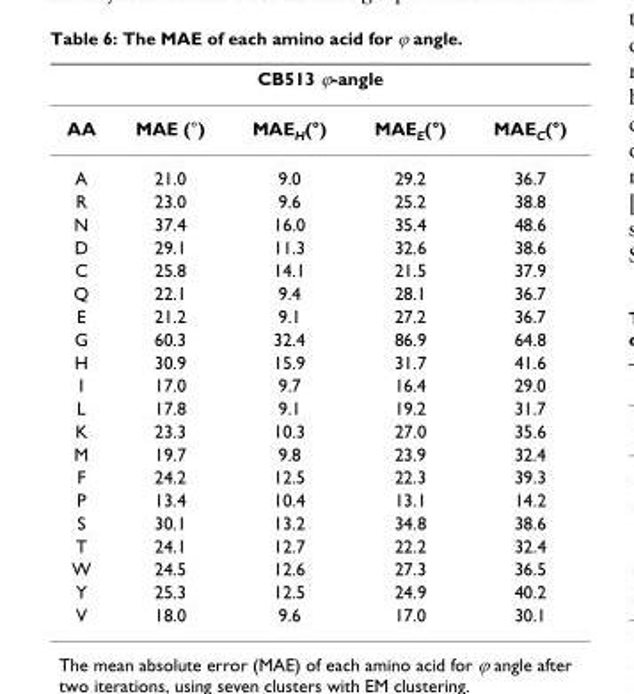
<table><thead><tr><td colspan="5">CB513 ϕ-angle</td></tr><tr><td>AA</td><td>MAE (°)</td><td>MAE<sub>H</sub>(°)</td><td>MAE<sub>E</sub>(°)</td><td>MAE<sub>C</sub>(°)</td></tr></thead><tbody><tr><td>A</td><td>21.0</td><td>9.0</td><td>29.2</td><td>36.7</td></tr><tr><td>R</td><td>23.0</td><td>9.6</td><td>25.2</td><td>38.8</td></tr><tr><td>N</td><td>37.4</td><td>16.0</td><td>35.4</td><td>48.6</td></tr><tr><td>D</td><td>29.1</td><td>11.3</td><td>32.6</td><td>38.6</td></tr><tr><td>C</td><td>25.8</td><td>14.1</td><td>21.5</td><td>37.9</td></tr><tr><td>Q</td><td>22.1</td><td>9.4</td><td>28.1</td><td>36.7</td></tr><tr><td>E</td><td>21.2</td><td>9.1</td><td>27.2</td><td>36.7</td></tr><tr><td>G</td><td>60.3</td><td>32.4</td><td>86.9</td><td>64.8</td></tr><tr><td>H</td><td>30.9</td><td>15.9</td><td>31.7</td><td>41.6</td></tr><tr><td>I</td><td>17.0</td><td>9.7</td><td>16.4</td><td>29.0</td></tr><tr><td>L</td><td>17.8</td><td>9.1</td><td>19.2</td><td>31.7</td></tr><tr><td>K</td><td>23.3</td><td>10.3</td><td>27.0</td><td>35.6</td></tr><tr><td>M</td><td>19.7</td><td>9.8</td><td>23.9</td><td>32.4</td></tr><tr><td>F</td><td>24.2</td><td>12.5</td><td>22.3</td><td>39.3</td></tr><tr><td>P</td><td>13.4</td><td>10.4</td><td>13.1</td><td>14.2</td></tr><tr><td>S</td><td>30.1</td><td>13.2</td><td>34.8</td><td>38.6</td></tr><tr><td>T</td><td>24.1</td><td>12.7</td><td>22.2</td><td>32.4</td></tr><tr><td>W</td><td>24.5</td><td>12.6</td><td>27.3</td><td>36.5</td></tr><tr><td>Y</td><td>25.3</td><td>12.5</td><td>24.9</td><td>40.2</td></tr><tr><td>V</td><td>18.0</td><td>9.6</td><td>17.0</td><td>30.1</td></tr></tbody></table>